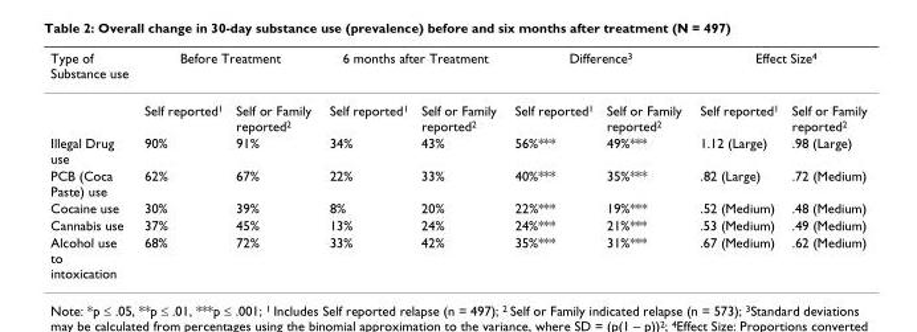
<table><thead><tr><td rowspan="2">Type of Substance use</td><td colspan="2">Before Treatment</td><td colspan="2">6 months after Treatment</td><td colspan="2">Difference<sup>3</sup></td><td colspan="2">Effect Size<sup>4</sup></td></tr><tr><td>Self reported<sup>1</sup></td><td>Self or Family reported<sup>2</sup></td><td>Self reported<sup>1</sup></td><td>Self or Family reported<sup>2</sup></td><td>Self reported<sup>1</sup></td><td>Self or Family reported<sup>2</sup></td><td>Self reported<sup>1</sup></td><td>Self or Family reported<sup>2</sup></td></tr></thead><tbody><tr><td>Illegal Drug use</td><td>90%</td><td>91%</td><td>34%</td><td>43%</td><td>56%***</td><td>49%***</td><td>1.12 (Large)</td><td>.98 (Large)</td></tr><tr><td>PCB (Coca Paste) use</td><td>62%</td><td>67%</td><td>22%</td><td>33%</td><td>40%***</td><td>35%***</td><td>.82 (Large)</td><td>.72 (Medium)</td></tr><tr><td>Cocaine use</td><td>30%</td><td>39%</td><td>8%</td><td>20%</td><td>22%***</td><td>19%***</td><td>.52 (Medium)</td><td>.48 (Medium)</td></tr><tr><td>Cannabis use</td><td>37%</td><td>45%</td><td>13%</td><td>24%</td><td>24%***</td><td>21%***</td><td>.53 (Medium)</td><td>.49 (Medium)</td></tr><tr><td>Alcohol use to intoxication</td><td>68%</td><td>72%</td><td>33%</td><td>42%</td><td>35%***</td><td>31%***</td><td>.67 (Medium)</td><td>.62 (Medium)</td></tr></tbody></table>